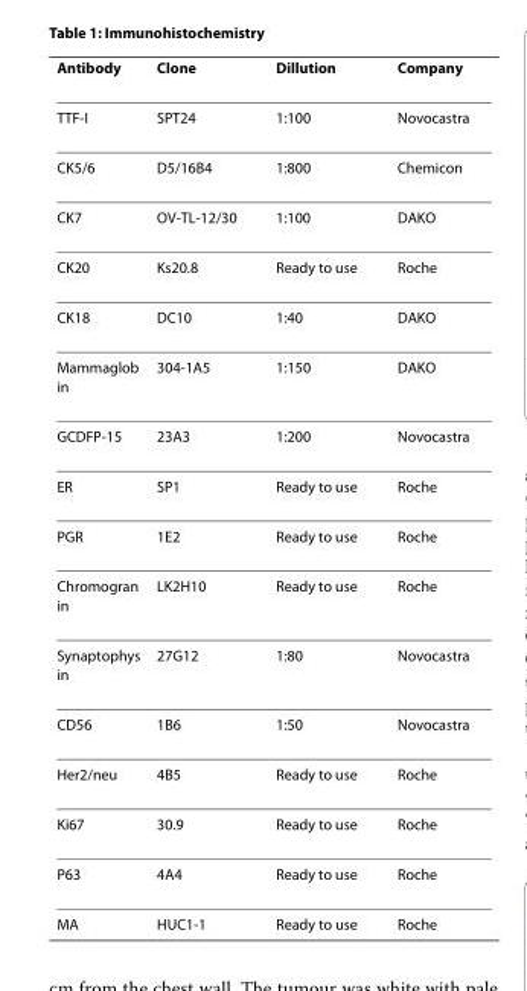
<table><thead><tr><td>Antibody</td><td>Clone</td><td>Dillution</td><td>Company</td></tr></thead><tbody><tr><td>TTF-I</td><td>SPT24</td><td>1:100</td><td>Novocastra</td></tr><tr><td>CK5/6</td><td>D5/16B4</td><td>1:800</td><td>Chemicon</td></tr><tr><td>CK7</td><td>OV-TL-12/30</td><td>1:100</td><td>DAKO</td></tr><tr><td>CK20</td><td>Ks20.8</td><td>Ready to use</td><td>Roche</td></tr><tr><td>CK18</td><td>DC10</td><td>1:40</td><td>DAKO</td></tr><tr><td>Mammaglob in</td><td>304-1A5</td><td>1:150</td><td>DAKO</td></tr><tr><td>GCDFP-15</td><td>23A3</td><td>1:200</td><td>Novocastra</td></tr><tr><td>ER</td><td>SP1</td><td>Ready to use</td><td>Roche</td></tr><tr><td>PGR</td><td>1E2</td><td>Ready to use</td><td>Roche</td></tr><tr><td>Chromogran in</td><td>LK2H10</td><td>Ready to use</td><td>Roche</td></tr><tr><td>Synaptophys in</td><td>27G12</td><td>1:80</td><td>Novocastra</td></tr><tr><td>CD56</td><td>1B6</td><td>1:50</td><td>Novocastra</td></tr><tr><td>Her2/neu</td><td>4B5</td><td>Ready to use</td><td>Roche</td></tr><tr><td>Ki67</td><td>30.9</td><td>Ready to use</td><td>Roche</td></tr><tr><td>P63</td><td>4A4</td><td>Ready to use</td><td>Roche</td></tr><tr><td>MA</td><td>HUC1-1</td><td>Ready to use</td><td>Roche</td></tr></tbody></table>